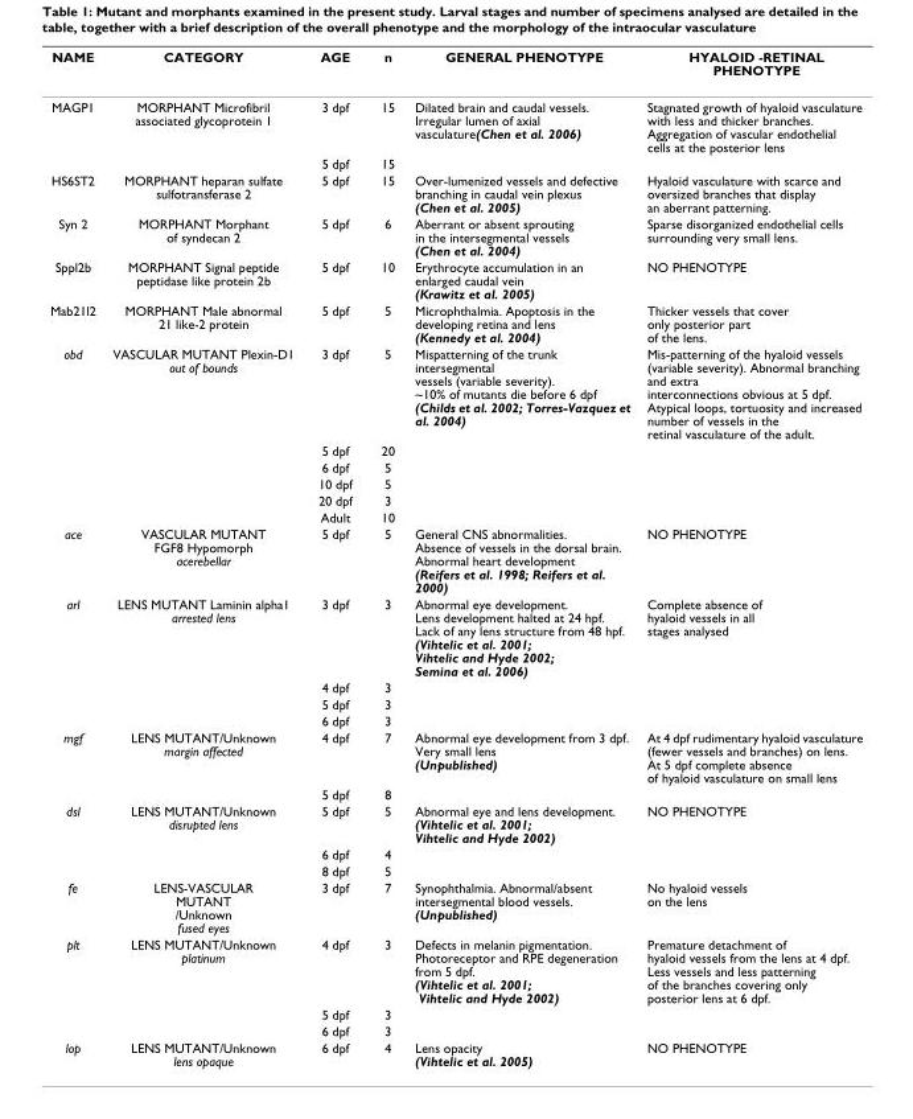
<table><thead><tr><td>NAME</td><td>CATEGORY</td><td>AGE</td><td>n</td><td>GENERAL PHENOTYPE</td><td>HYALOID -RETINAL PHENOTYPE</td></tr></thead><tbody><tr><td rowspan="2">MAGP1</td><td>MORPHANT Microfibril associated glycoprotein 1</td><td>3 dpf</td><td>15</td><td>Dilated brain and caudal vessels. Irregular lumen of axial vasculature(Chen et al. 2006)</td><td>Stagnated growth of hyaloid vasculature with less and thicker branches. Aggregation of vascular endothelial cells at the posterior lens</td></tr><tr><td></td><td>5 dpf</td><td>15</td><td></td><td></td></tr><tr><td>HS6ST2</td><td>MORPHANT heparan sulfate sulfotransferase 2</td><td>5 dpf</td><td>15</td><td>Over-lumenized vessels and defective branching in caudal vein plexus (Chen et al. 2005)</td><td>Hyaloid vasculature with scarce and oversized branches that display an aberrant patterning.</td></tr><tr><td>Syn 2</td><td>MORPHANT Morphant of syndecan 2</td><td>5 dpf</td><td>6</td><td>Aberrant or absent sprouting in the intersegmental vessels (Chen et al. 2004)</td><td>Sparse disorganized endothelial cells surrounding very small lens.</td></tr><tr><td>Sppl2b</td><td>MORPHANT Signal peptide peptidase like protein 2b</td><td>5 dpf</td><td>10</td><td>Erythrocyte accumulation in an enlarged caudal vein (Krawitz et al. 2005)</td><td>NO PHENOTYPE</td></tr><tr><td>Mab21l2</td><td>MORPHANT Male abnormal 21 like-2 protein</td><td>5 dpf</td><td>5</td><td>Microphthalmia. Apoptosis in the developing retina and lens (Kennedy et al. 2004)</td><td>Thicker vessels that cover only posterior part of the lens.</td></tr><tr><td rowspan="6">obd</td><td>VASCULAR MUTANT Plexin-D1 out of bounds</td><td>3 dpf</td><td>5</td><td>Mispatterning of the trunk intersegmental vessels (variable severity). ~10% of mutants die before 6 dpf (Childs et al. 2002; Torres-Vazquez et al. 2004)</td><td>Mis-patterning of the hyaloid vessels (variable severity). Abnormal branching and extra interconnections obvious at 5 dpf. Atypical loops, tortuosity and increased number of vessels in the retinal vasculature of the adult.</td></tr><tr><td></td><td>5 dpf</td><td>20</td><td></td><td></td></tr><tr><td></td><td>6 dpf</td><td>5</td><td></td><td></td></tr><tr><td></td><td>10 dpf</td><td>5</td><td></td><td></td></tr><tr><td></td><td>20 dpf</td><td>3</td><td></td><td></td></tr><tr><td></td><td>Adult</td><td>10</td><td></td><td></td></tr><tr><td>ace</td><td>VASCULAR MUTANT FGF8 Hypomorph acerebellar</td><td>5 dpf</td><td>5</td><td>General CNS abnormalities. Absence of vessels in the dorsal brain. Abnormal heart development (Reifers et al. 1998; Reifers et al. 2000)</td><td>NO PHENOTYPE</td></tr><tr><td rowspan="4">arl</td><td>LENS MUTANT Laminin alpha1 arrested lens</td><td>3 dpf</td><td>3</td><td>Abnormal eye development. Lens development halted at 24 hpf. Lack of any lens structure from 48 hpf. (Vihtelic et al. 2001; Vihtelic and Hyde 2002; Semina et al. 2006)</td><td>Complete absence of hyaloid vessels in all stages analysed</td></tr><tr><td></td><td>4 dpf</td><td>3</td><td></td><td></td></tr><tr><td></td><td>5 dpf</td><td>3</td><td></td><td></td></tr><tr><td></td><td>6 dpf</td><td>3</td><td></td><td></td></tr><tr><td rowspan="2">mgf</td><td>LENS MUTANT/Unknown margin affected</td><td>4 dpf</td><td>7</td><td>Abnormal eye development from 3 dpf. Very small lens (Unpublished)</td><td>At 4 dpf rudimentary hyaloid vasculature (fewer vessels and branches) on lens. At 5 dpf complete absence of hyaloid vasculature on small lens</td></tr><tr><td></td><td>5 dpf</td><td>8</td><td></td><td></td></tr><tr><td rowspan="3">dsl</td><td>LENS MUTANT/Unknown disrupted lens</td><td>5 dpf</td><td>5</td><td>Abnormal eye and lens development. (Vihtelic et al. 2001; Vihtelic and Hyde 2002)</td><td>NO PHENOTYPE</td></tr><tr><td></td><td>6 dpf</td><td>4</td><td></td><td></td></tr><tr><td></td><td>8 dpf</td><td>5</td><td></td><td></td></tr><tr><td>fe</td><td>LENS-VASCULAR MUTANT /Unknown fused eyes</td><td>3 dpf</td><td>7</td><td>Synophthalmia. Abnormal/absent intersegmental blood vessels. (Unpublished)</td><td>No hyaloid vessels on the lens</td></tr><tr><td rowspan="3">plt</td><td>LENS MUTANT/Unknown platinum</td><td>4 dpf</td><td>3</td><td>Defects in melanin pigmentation. Photoreceptor and RPE degeneration from 5 dpf. (Vihtelic et al. 2001; Vihtelic and Hyde 2002)</td><td>Premature detachment of hyaloid vessels from the lens at 4 dpf. Less vessels and less patterning of the branches covering only posterior lens at 6 dpf.</td></tr><tr><td></td><td>5 dpf</td><td>3</td><td></td><td></td></tr><tr><td></td><td>6 dpf</td><td>3</td><td></td><td></td></tr><tr><td>lop</td><td>LENS MUTANT/Unknown lens opaque</td><td>6 dpf</td><td>4</td><td>Lens opacity (Vihtelic et al. 2005)</td><td>NO PHENOTYPE</td></tr></tbody></table>